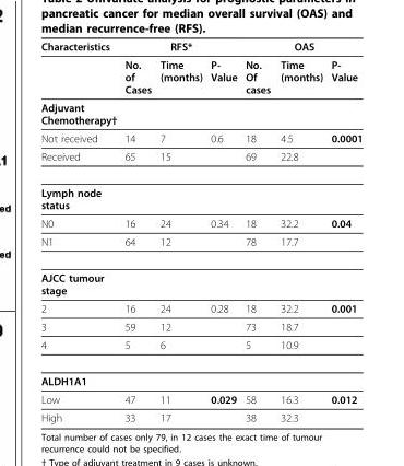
<table><thead><tr><td rowspan="2">Characteristics</td><td colspan="3">RFS*</td><td colspan="3">OAS</td></tr><tr><td>No. of Cases</td><td>Time (months)</td><td>P- Value</td><td>No. Of cases</td><td>Time (months)</td><td>P- Value</td></tr></thead><tbody><tr><td colspan="7">Adjuvant Chemotherapy†</td></tr><tr><td>Not received</td><td>14</td><td>7</td><td>0.6</td><td>18</td><td>4.5</td><td>0.0001</td></tr><tr><td>Received</td><td>65</td><td>15</td><td></td><td>69</td><td>22.8</td><td></td></tr><tr><td colspan="7">Lymph node status</td></tr><tr><td>N0</td><td>16</td><td>24</td><td>0.34</td><td>18</td><td>32.2</td><td>0.04</td></tr><tr><td>N1</td><td>64</td><td>12</td><td></td><td>78</td><td>17.7</td><td></td></tr><tr><td colspan="7">AJCC tumour stage</td></tr><tr><td>2</td><td>16</td><td>24</td><td>0.28</td><td>18</td><td>32.2</td><td>0.001</td></tr><tr><td>3</td><td>59</td><td>12</td><td></td><td>73</td><td>18.7</td><td></td></tr><tr><td>4</td><td>5</td><td>6</td><td></td><td>5</td><td>10.9</td><td></td></tr><tr><td colspan="7">ALDH1A1</td></tr><tr><td>Low</td><td>47</td><td>11</td><td>0.029</td><td>58</td><td>16.3</td><td>0.012</td></tr><tr><td>High</td><td>33</td><td>17</td><td></td><td>38</td><td>32.3</td><td></td></tr></tbody></table>